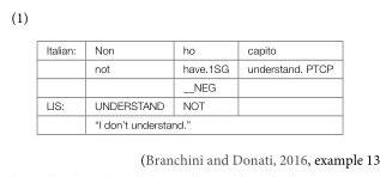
<table><tbody><tr><td rowspan="3">Italian:</td><td>Non</td><td>ho</td><td>capito</td></tr><tr><td>not</td><td>have.1SG</td><td>understand. PTCP</td></tr><tr><td></td><td>__NEG</td><td></td></tr><tr><td rowspan="2">LIS:</td><td>UNDERSTAND</td><td>NOT</td><td></td></tr><tr><td colspan="3">“I don’t understand.”</td></tr></tbody></table>